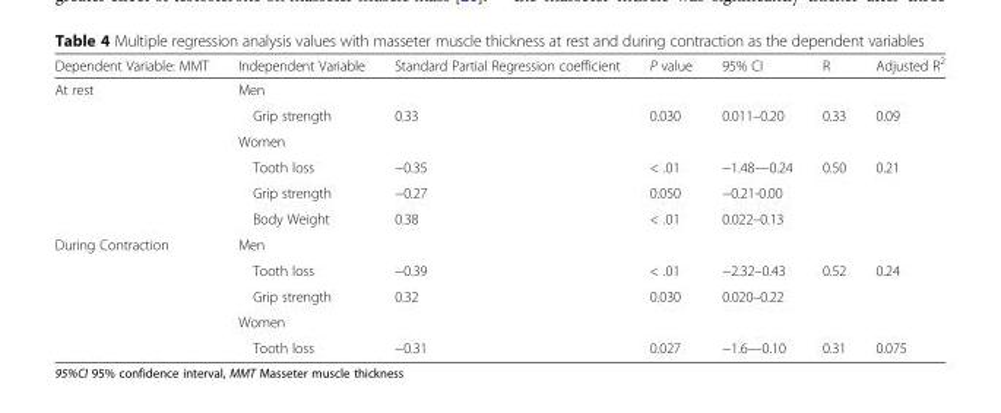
<table><thead><tr><td>Dependent Variable: MMT</td><td>Independent Variable</td><td>Standard Partial Regression coefficient</td><td>P value</td><td>95% CI</td><td>R</td><td>Adjusted R<sup>2</sup></td></tr></thead><tbody><tr><td rowspan="6">At rest</td><td colspan="6">Men</td></tr><tr><td>Grip strength</td><td>0.33</td><td>0.030</td><td>0.011–0.20</td><td>0.33</td><td>0.09</td></tr><tr><td colspan="6">Women</td></tr><tr><td>Tooth loss</td><td>−0.35</td><td>&lt; .01</td><td>−1.48—0.24</td><td rowspan="3">0.50</td><td rowspan="3">0.21</td></tr><tr><td>Grip strength</td><td>−0.27</td><td>0.050</td><td>−0.21-0.00</td></tr><tr><td>Body Weight</td><td>0.38</td><td>&lt; .01</td><td>0.022–0.13</td></tr><tr><td rowspan="5">During Contraction</td><td colspan="6">Men</td></tr><tr><td>Tooth loss</td><td>−0.39</td><td>&lt; .01</td><td>−2.32–0.43</td><td rowspan="2">0.52</td><td rowspan="2">0.24</td></tr><tr><td>Grip strength</td><td>0.32</td><td>0.030</td><td>0.020–0.22</td></tr><tr><td colspan="6">Women</td></tr><tr><td>Tooth loss</td><td>−0.31</td><td>0.027</td><td>−1.6—0.10</td><td>0.31</td><td>0.075</td></tr></tbody></table>